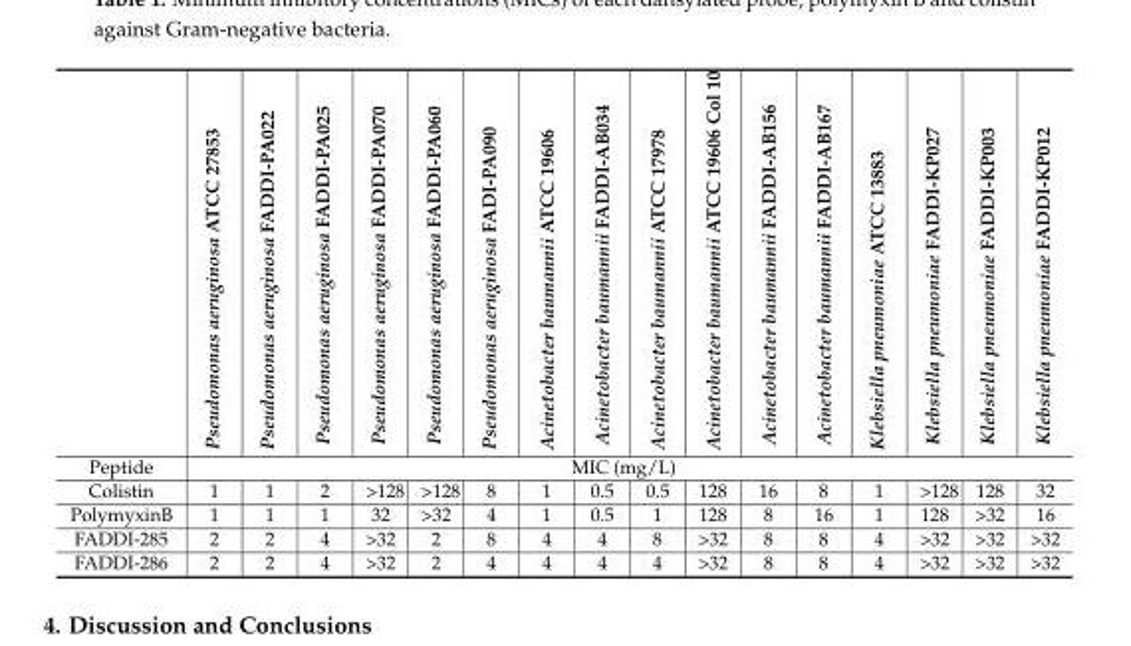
<table><thead><tr><td></td><td>Pseudomonas aeruginosa ATCC 27853</td><td>Pseudomonas aeruginosa FADDI-PA022</td><td>Pseudomonas aeruginosa FADDI-PA025</td><td>Pseudomonas aeruginosa FADDI-PA070</td><td>Pseudomonas aeruginosa FADDI-PA060</td><td>Pseudomonas aeruginosa FADI-PA090</td><td>Acinetobacter baumannii ATCC 19606</td><td>Acinetobacter baumannii FADDI-AB034</td><td>Acinetobacter baumannii ATCC 17978</td><td>Acinetobacter baumannii ATCC 19606 Col 10</td><td>Acinetobacter baumannii FADDI-AB156</td><td>Acinetobacter baumannii FADDI-AB167</td><td>Klebsiella pneumoniae ATCC 13883</td><td>Klebsiella pneumoniae FADDI-KP027</td><td>Klebsiella pneumoniae FADDI-KP003</td><td>Klebsiella pneumoniae FADDI-KP012</td></tr></thead><tbody><tr><td>Peptide</td><td colspan="16">MIC (mg/L)</td></tr><tr><td>Colistin</td><td>1</td><td>1</td><td>2</td><td>&gt;128</td><td>&gt;128</td><td>8</td><td>1</td><td>0.5</td><td>0.5</td><td>128</td><td>16</td><td>8</td><td>1</td><td>&gt;128</td><td>128</td><td>32</td></tr><tr><td>PolymyxinB</td><td>1</td><td>1</td><td>1</td><td>32</td><td>&gt;32</td><td>4</td><td>1</td><td>0.5</td><td>1</td><td>128</td><td>8</td><td>16</td><td>1</td><td>128</td><td>&gt;32</td><td>16</td></tr><tr><td>FADDI-285</td><td>2</td><td>2</td><td>4</td><td>&gt;32</td><td>2</td><td>8</td><td>4</td><td>4</td><td>8</td><td>&gt;32</td><td>8</td><td>8</td><td>4</td><td>&gt;32</td><td>&gt;32</td><td>&gt;32</td></tr><tr><td>FADDI-286</td><td>2</td><td>2</td><td>4</td><td>&gt;32</td><td>2</td><td>4</td><td>4</td><td>4</td><td>4</td><td>&gt;32</td><td>8</td><td>8</td><td>4</td><td>&gt;32</td><td>&gt;32</td><td>&gt;32</td></tr></tbody></table>